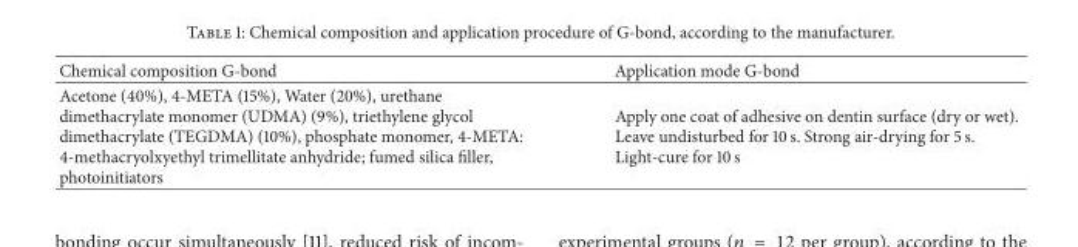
<table><thead><tr><td>Chemical composition G-bond</td><td>Application mode G-bond</td></tr></thead><tbody><tr><td>Acetone (40%), 4-META (15%), Water (20%), urethane dimethacrylate monomer (UDMA) (9%), triethylene glycol dimethacrylate (TEGDMA) (10%), phosphate monomer, 4-META: 4-methacryolxyethyl trimellitate anhydride; fumed silica filler, photoinitiators</td><td>Apply one coat of adhesive on dentin surface (dry or wet). Leave undisturbed for 10 s. Strong air-drying for 5 s. Light-cure for 10 s</td></tr></tbody></table>